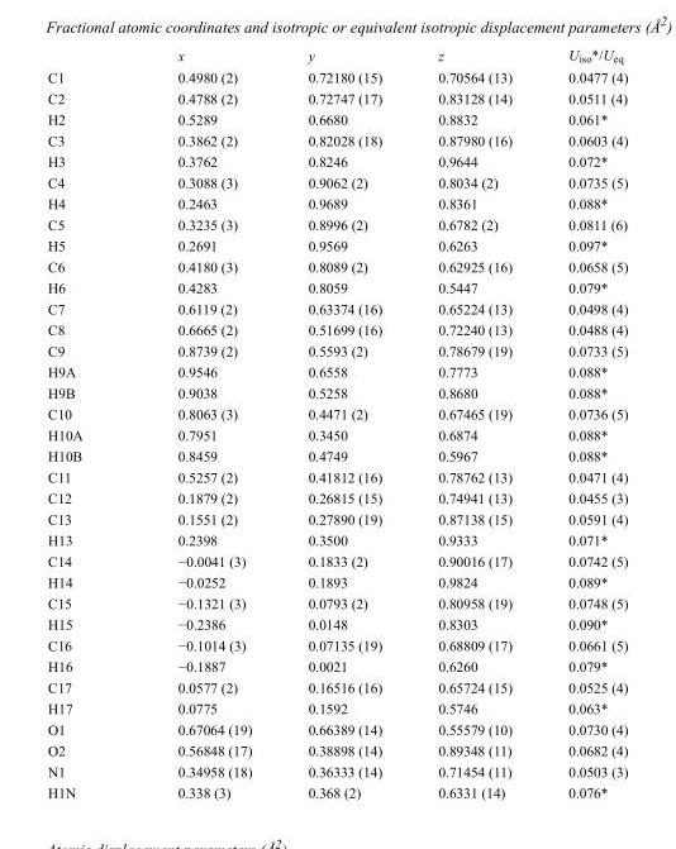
<table><thead><tr><td></td><td>x</td><td>y</td><td>z</td><td>U<sub>iso</sub>*/U<sub>eq</sub></td></tr></thead><tbody><tr><td>C1</td><td>0.4980 (2)</td><td>0.72180 (15)</td><td>0.70564 (13)</td><td>0.0477 (4)</td></tr><tr><td>C2</td><td>0.4788 (2)</td><td>0.72747 (17)</td><td>0.83128 (14)</td><td>0.0511 (4)</td></tr><tr><td>H2</td><td>0.5289</td><td>0.6680</td><td>0.8832</td><td>0.061*</td></tr><tr><td>C3</td><td>0.3862 (2)</td><td>0.82028 (18)</td><td>0.87980 (16)</td><td>0.0603 (4)</td></tr><tr><td>H3</td><td>0.3762</td><td>0.8246</td><td>0.9644</td><td>0.072*</td></tr><tr><td>C4</td><td>0.3088 (3)</td><td>0.9062 (2)</td><td>0.8034 (2)</td><td>0.0735 (5)</td></tr><tr><td>H4</td><td>0.2463</td><td>0.9689</td><td>0.8361</td><td>0.088*</td></tr><tr><td>C5</td><td>0.3235 (3)</td><td>0.8996 (2)</td><td>0.6782 (2)</td><td>0.0811 (6)</td></tr><tr><td>H5</td><td>0.2691</td><td>0.9569</td><td>0.6263</td><td>0.097*</td></tr><tr><td>C6</td><td>0.4180 (3)</td><td>0.8089 (2)</td><td>0.62925 (16)</td><td>0.0658 (5)</td></tr><tr><td>H6</td><td>0.4283</td><td>0.8059</td><td>0.5447</td><td>0.079*</td></tr><tr><td>C7</td><td>0.6119 (2)</td><td>0.63374 (16)</td><td>0.65224 (13)</td><td>0.0498 (4)</td></tr><tr><td>C8</td><td>0.6665 (2)</td><td>0.51699 (16)</td><td>0.72240 (13)</td><td>0.0488 (4)</td></tr><tr><td>C9</td><td>0.8739 (2)</td><td>0.5593 (2)</td><td>0.78679 (19)</td><td>0.0733 (5)</td></tr><tr><td>H9A</td><td>0.9546</td><td>0.6558</td><td>0.7773</td><td>0.088*</td></tr><tr><td>H9B</td><td>0.9038</td><td>0.5258</td><td>0.8680</td><td>0.088*</td></tr><tr><td>C10</td><td>0.8063 (3)</td><td>0.4471 (2)</td><td>0.67465 (19)</td><td>0.0736 (5)</td></tr><tr><td>H10A</td><td>0.7951</td><td>0.3450</td><td>0.6874</td><td>0.088*</td></tr><tr><td>H10B</td><td>0.8459</td><td>0.4749</td><td>0.5967</td><td>0.088*</td></tr><tr><td>C11</td><td>0.5257 (2)</td><td>0.41812 (16)</td><td>0.78762 (13)</td><td>0.0471 (4)</td></tr><tr><td>C12</td><td>0.1879 (2)</td><td>0.26815 (15)</td><td>0.74941 (13)</td><td>0.0455 (3)</td></tr><tr><td>C13</td><td>0.1551 (2)</td><td>0.27890 (19)</td><td>0.87138 (15)</td><td>0.0591 (4)</td></tr><tr><td>H13</td><td>0.2398</td><td>0.3500</td><td>0.9333</td><td>0.071*</td></tr><tr><td>C14</td><td>−0.0041 (3)</td><td>0.1833 (2)</td><td>0.90016 (17)</td><td>0.0742 (5)</td></tr><tr><td>H14</td><td>−0.0252</td><td>0.1893</td><td>0.9824</td><td>0.089*</td></tr><tr><td>C15</td><td>−0.1321 (3)</td><td>0.0793 (2)</td><td>0.80958 (19)</td><td>0.0748 (5)</td></tr><tr><td>H15</td><td>−0.2386</td><td>0.0148</td><td>0.8303</td><td>0.090*</td></tr><tr><td>C16</td><td>−0.1014 (3)</td><td>0.07135 (19)</td><td>0.68809 (17)</td><td>0.0661 (5)</td></tr><tr><td>H16</td><td>−0.1887</td><td>0.0021</td><td>0.6260</td><td>0.079*</td></tr><tr><td>C17</td><td>0.0577 (2)</td><td>0.16516 (16)</td><td>0.65724 (15)</td><td>0.0525 (4)</td></tr><tr><td>H17</td><td>0.0775</td><td>0.1592</td><td>0.5746</td><td>0.063*</td></tr><tr><td>O1</td><td>0.67064 (19)</td><td>0.66389 (14)</td><td>0.55579 (10)</td><td>0.0730 (4)</td></tr><tr><td>O2</td><td>0.56848 (17)</td><td>0.38898 (14)</td><td>0.89348 (11)</td><td>0.0682 (4)</td></tr><tr><td>N1</td><td>0.34958 (18)</td><td>0.36333 (14)</td><td>0.71454 (11)</td><td>0.0503 (3)</td></tr><tr><td>H1N</td><td>0.338 (3)</td><td>0.368 (2)</td><td>0.6331 (14)</td><td>0.076*</td></tr></tbody></table>